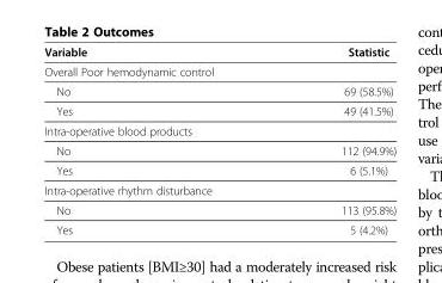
<table><thead><tr><td>Variable</td><td>Statistic</td></tr></thead><tbody><tr><td colspan="2">Overall Poor hemodynamic control</td></tr><tr><td>No</td><td>69 (58.5%)</td></tr><tr><td>Yes</td><td>49 (41.5%)</td></tr><tr><td colspan="2">Intra-operative blood products</td></tr><tr><td>No</td><td>112 (94.9%)</td></tr><tr><td>Yes</td><td>6 (5.1%)</td></tr><tr><td colspan="2">Intra-operative rhythm disturbance</td></tr><tr><td>No</td><td>113 (95.8%)</td></tr><tr><td>Yes</td><td>5 (4.2%)</td></tr></tbody></table>